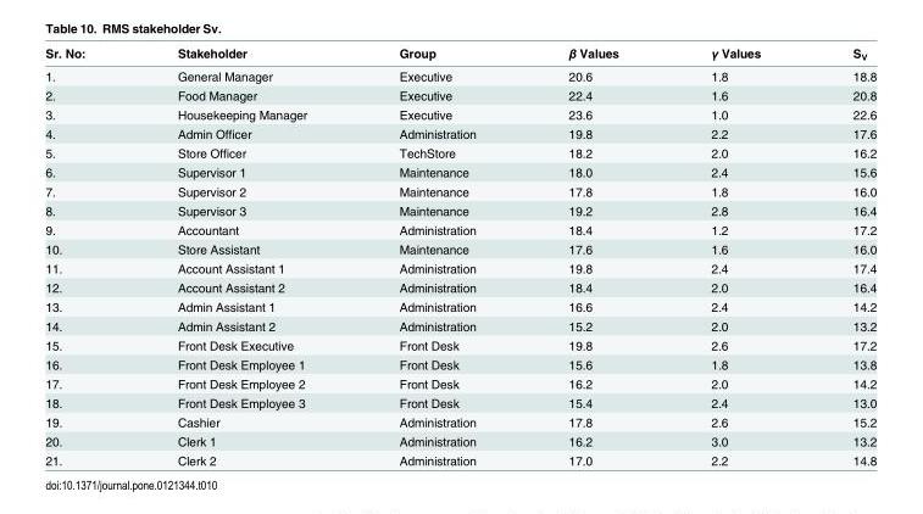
<table><thead><tr><td>Sr. No:</td><td>Stakeholder</td><td>Group</td><td>β Values</td><td>γ Values</td><td>S<sub>V</sub></td></tr></thead><tbody><tr><td>1.</td><td>General Manager</td><td>Executive</td><td>20.6</td><td>1.8</td><td>18.8</td></tr><tr><td>2.</td><td>Food Manager</td><td>Executive</td><td>22.4</td><td>1.6</td><td>20.8</td></tr><tr><td>3.</td><td>Housekeeping Manager</td><td>Executive</td><td>23.6</td><td>1.0</td><td>22.6</td></tr><tr><td>4.</td><td>Admin Officer</td><td>Administration</td><td>19.8</td><td>2.2</td><td>17.6</td></tr><tr><td>5.</td><td>Store Officer</td><td>TechStore</td><td>18.2</td><td>2.0</td><td>16.2</td></tr><tr><td>6.</td><td>Supervisor 1</td><td>Maintenance</td><td>18.0</td><td>2.4</td><td>15.6</td></tr><tr><td>7.</td><td>Supervisor 2</td><td>Maintenance</td><td>17.8</td><td>1.8</td><td>16.0</td></tr><tr><td>8.</td><td>Supervisor 3</td><td>Maintenance</td><td>19.2</td><td>2.8</td><td>16.4</td></tr><tr><td>9.</td><td>Accountant</td><td>Administration</td><td>18.4</td><td>1.2</td><td>17.2</td></tr><tr><td>10.</td><td>Store Assistant</td><td>Maintenance</td><td>17.6</td><td>1.6</td><td>16.0</td></tr><tr><td>11.</td><td>Account Assistant 1</td><td>Administration</td><td>19.8</td><td>2.4</td><td>17.4</td></tr><tr><td>12.</td><td>Account Assistant 2</td><td>Administration</td><td>18.4</td><td>2.0</td><td>16.4</td></tr><tr><td>13.</td><td>Admin Assistant 1</td><td>Administration</td><td>16.6</td><td>2.4</td><td>14.2</td></tr><tr><td>14.</td><td>Admin Assistant 2</td><td>Administration</td><td>15.2</td><td>2.0</td><td>13.2</td></tr><tr><td>15.</td><td>Front Desk Executive</td><td>Front Desk</td><td>19.8</td><td>2.6</td><td>17.2</td></tr><tr><td>16.</td><td>Front Desk Employee 1</td><td>Front Desk</td><td>15.6</td><td>1.8</td><td>13.8</td></tr><tr><td>17.</td><td>Front Desk Employee 2</td><td>Front Desk</td><td>16.2</td><td>2.0</td><td>14.2</td></tr><tr><td>18.</td><td>Front Desk Employee 3</td><td>Front Desk</td><td>15.4</td><td>2.4</td><td>13.0</td></tr><tr><td>19.</td><td>Cashier</td><td>Administration</td><td>17.8</td><td>2.6</td><td>15.2</td></tr><tr><td>20.</td><td>Clerk 1</td><td>Administration</td><td>16.2</td><td>3.0</td><td>13.2</td></tr><tr><td>21.</td><td>Clerk 2</td><td>Administration</td><td>17.0</td><td>2.2</td><td>14.8</td></tr></tbody></table>